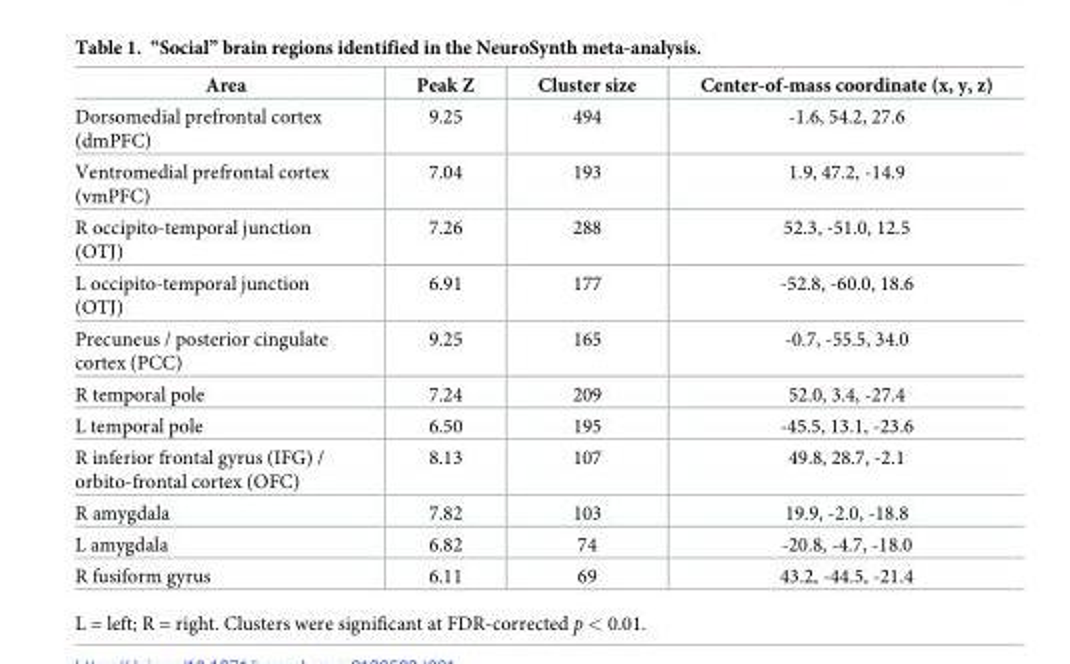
<table><thead><tr><td>Area</td><td>Peak Z</td><td>Cluster size</td><td>Center-of-mass coordinate (x, y, z)</td></tr></thead><tbody><tr><td>Dorsomedial prefrontal cortex (dmPFC)</td><td>9.25</td><td>494</td><td>-1.6, 54.2, 27.6</td></tr><tr><td>Ventromedial prefrontal cortex (vmPFC)</td><td>7.04</td><td>193</td><td>1.9, 47.2, -14.9</td></tr><tr><td>R occipito-temporal junction (OTJ)</td><td>7.26</td><td>288</td><td>52.3, -51.0, 12.5</td></tr><tr><td>L occipito-temporal junction (OTJ)</td><td>6.91</td><td>177</td><td>-52.8, -60.0, 18.6</td></tr><tr><td>Precuneus / posterior cingulate cortex (PCC)</td><td>9.25</td><td>165</td><td>-0.7, -55.5, 34.0</td></tr><tr><td>R temporal pole</td><td>7.24</td><td>209</td><td>52.0, 3.4, -27.4</td></tr><tr><td>L temporal pole</td><td>6.50</td><td>195</td><td>-45.5, 13.1, -23.6</td></tr><tr><td>R inferior frontal gyrus (IFG) / orbito-frontal cortex (OFC)</td><td>8.13</td><td>107</td><td>49.8, 28.7, -2.1</td></tr><tr><td>R amygdala</td><td>7.82</td><td>103</td><td>19.9, -2.0, -18.8</td></tr><tr><td>L amygdala</td><td>6.82</td><td>74</td><td>-20.8, -4.7, -18.0</td></tr><tr><td>R fusiform gyrus</td><td>6.11</td><td>69</td><td>43.2, -44.5, -21.4</td></tr></tbody></table>